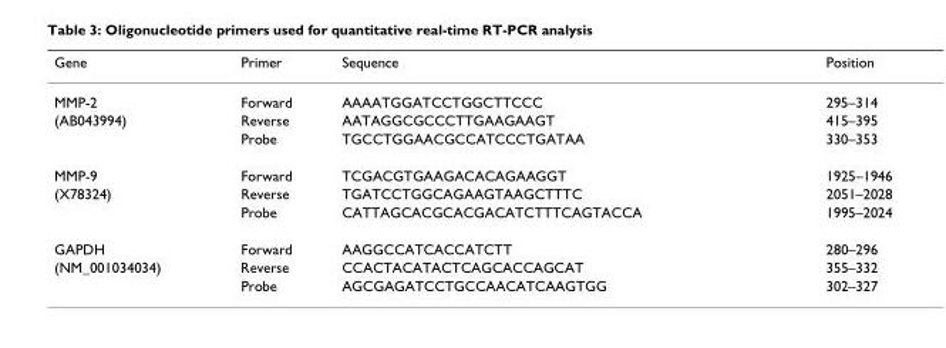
<table><thead><tr><td>Gene</td><td>Primer</td><td>Sequence</td><td>Position</td></tr></thead><tbody><tr><td>MMP-2</td><td>Forward</td><td>AAAATGGATCCTGGCTTCCC</td><td>295–314</td></tr><tr><td rowspan="2">(AB043994)</td><td>Reverse</td><td>AATAGGCGCCCTTGAAGAAGT</td><td>415–395</td></tr><tr><td>Probe</td><td>TGCCTGGAACGCCATCCCTGATAA</td><td>330–353</td></tr><tr><td>MMP-9</td><td>Forward</td><td>TCGACGTGAAGACACAGAAGGT</td><td>1925–1946</td></tr><tr><td rowspan="2">(X78324)</td><td>Reverse</td><td>TGATCCTGGCAGAAGTAAGCTTTC</td><td>2051–2028</td></tr><tr><td>Probe</td><td>CATTAGCACGCACGACATCTTTCAGTACCA</td><td>1995–2024</td></tr><tr><td>GAPDH</td><td>Forward</td><td>AAGGCCATCACCATCTT</td><td>280–296</td></tr><tr><td rowspan="2">(NM_001034034)</td><td>Reverse</td><td>CCACTACATACTCAGCACCAGCAT</td><td>355–332</td></tr><tr><td>Probe</td><td>AGCGAGATCCTGCCAACATCAAGTGG</td><td>302–327</td></tr></tbody></table>